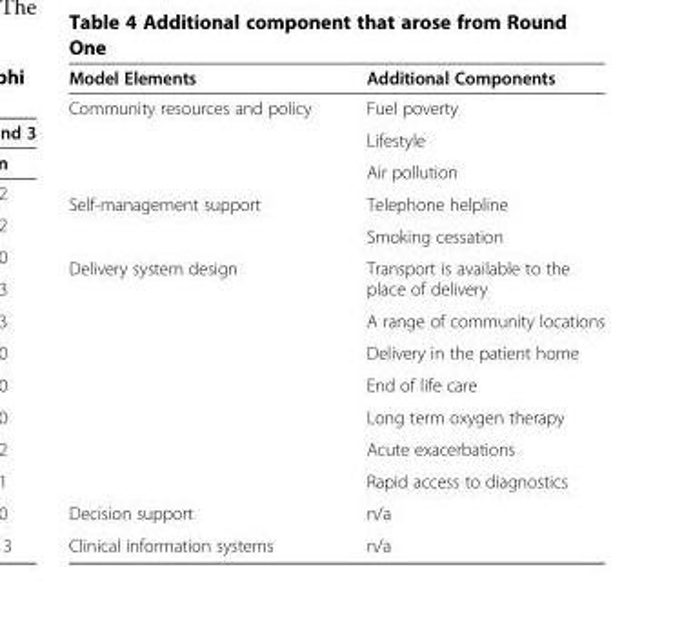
<table><thead><tr><td>Model Elements</td><td>Additional Components</td></tr></thead><tbody><tr><td rowspan="3">Community resources and policy</td><td>Fuel poverty</td></tr><tr><td>Lifestyle</td></tr><tr><td>Air pollution</td></tr><tr><td rowspan="2">Self-management support</td><td>Telephone helpline</td></tr><tr><td>Smoking cessation</td></tr><tr><td rowspan="7">Delivery system design</td><td>Transport is available to the place of delivery</td></tr><tr><td>A range of community locations</td></tr><tr><td>Delivery in the patient home</td></tr><tr><td>End of life care</td></tr><tr><td>Long term oxygen therapy</td></tr><tr><td>Acute exacerbations</td></tr><tr><td>Rapid access to diagnostics</td></tr><tr><td>Decision support</td><td>n/a</td></tr><tr><td>Clinical information systems</td><td>n/a</td></tr></tbody></table>